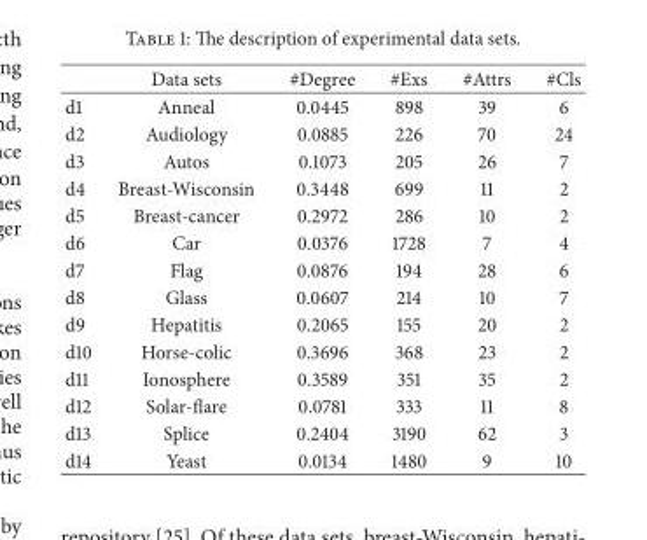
<table><thead><tr><td></td><td>Data sets</td><td>#Degree</td><td>#Exs</td><td>#Attrs</td><td>#Cls</td></tr></thead><tbody><tr><td>d1</td><td>Anneal</td><td>0.0445</td><td>898</td><td>39</td><td>6</td></tr><tr><td>d2</td><td>Audiology</td><td>0.0885</td><td>226</td><td>70</td><td>24</td></tr><tr><td>d3</td><td>Autos</td><td>0.1073</td><td>205</td><td>26</td><td>7</td></tr><tr><td>d4</td><td>Breast-Wisconsin</td><td>0.3448</td><td>699</td><td>11</td><td>2</td></tr><tr><td>d5</td><td>Breast-cancer</td><td>0.2972</td><td>286</td><td>10</td><td>2</td></tr><tr><td>d6</td><td>Car</td><td>0.0376</td><td>1728</td><td>7</td><td>4</td></tr><tr><td>d7</td><td>Flag</td><td>0.0876</td><td>194</td><td>28</td><td>6</td></tr><tr><td>d8</td><td>Glass</td><td>0.0607</td><td>214</td><td>10</td><td>7</td></tr><tr><td>d9</td><td>Hepatitis</td><td>0.2065</td><td>155</td><td>20</td><td>2</td></tr><tr><td>d10</td><td>Horse-colic</td><td>0.3696</td><td>368</td><td>23</td><td>2</td></tr><tr><td>d11</td><td>Ionosphere</td><td>0.3589</td><td>351</td><td>35</td><td>2</td></tr><tr><td>d12</td><td>Solar-flare</td><td>0.0781</td><td>333</td><td>11</td><td>8</td></tr><tr><td>d13</td><td>Splice</td><td>0.2404</td><td>3190</td><td>62</td><td>3</td></tr><tr><td>d14</td><td>Yeast</td><td>0.0134</td><td>1480</td><td>9</td><td>10</td></tr></tbody></table>